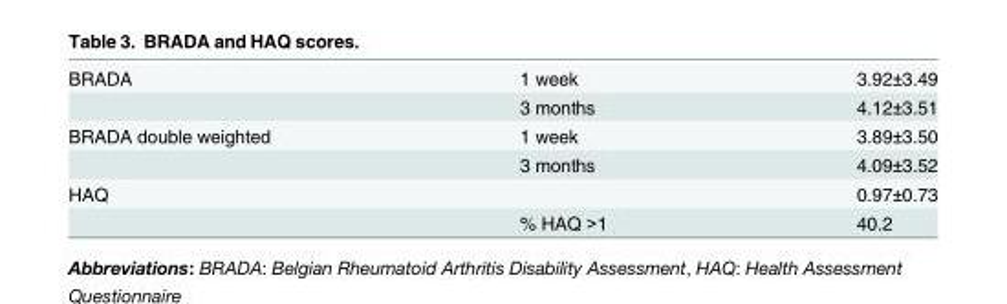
<table><tbody><tr><td rowspan="2">BRADA</td><td>1 week</td><td>3.92±3.49</td></tr><tr><td>3 months</td><td>4.12±3.51</td></tr><tr><td rowspan="2">BRADA double weighted</td><td>1 week</td><td>3.89±3.50</td></tr><tr><td>3 months</td><td>4.09±3.52</td></tr><tr><td rowspan="2">HAQ</td><td></td><td>0.97±0.73</td></tr><tr><td>% HAQ &gt;1</td><td>40.2</td></tr></tbody></table>